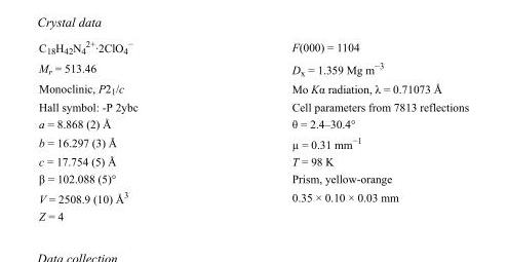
<table><tbody><tr><td>C<sub>18</sub>H<sub>42</sub>N<sub>4</sub> <sup>2+</sup>·2ClO<sub>4</sub> <sup>−</sup></td><td>F(000) = 1104</td></tr><tr><td>M<sub>r</sub> = 513.46</td><td>D<sub>x</sub> = 1.359 Mg m<sup>−3</sup></td></tr><tr><td>Monoclinic, P2<sub>1</sub>/c</td><td>Mo Kα radiation, λ = 0.71073 Å</td></tr><tr><td>Hall symbol: -P 2ybc</td><td>Cell parameters from 7813 reflections</td></tr><tr><td>a = 8.868 (2) Å</td><td>θ = 2.4–30.4°</td></tr><tr><td>b = 16.297 (3) Å</td><td>µ = 0.31 mm<sup>−1</sup></td></tr><tr><td>c = 17.754 (5) Å</td><td>T = 98 K</td></tr><tr><td>β = 102.088 (5)°</td><td>Prism, yellow-orange</td></tr><tr><td>V = 2508.9 (10) Å<sup>3</sup></td><td>0.35 × 0.10 × 0.03 mm</td></tr><tr><td>Z = 4</td><td></td></tr></tbody></table>